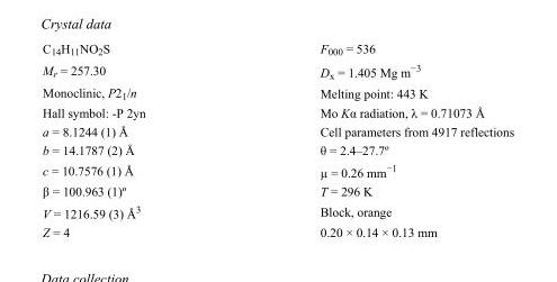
<table><tbody><tr><td>C<sub>14</sub>H<sub>11</sub>NO<sub>2</sub>S</td><td>F000 = 536</td></tr><tr><td>M<sub>r</sub> = 257.30</td><td>D<sub>x</sub> = 1.405 Mg m<sup>−3</sup></td></tr><tr><td>Monoclinic, P2<sub>1</sub>/n</td><td>Melting point: 443 K</td></tr><tr><td>Hall symbol: -P 2yn</td><td>Mo Kα radiation, λ = 0.71073 Å</td></tr><tr><td>a = 8.1244 (1) Å</td><td>Cell parameters from 4917 reflections</td></tr><tr><td>b = 14.1787 (2) Å</td><td>θ = 2.4–27.7º</td></tr><tr><td>c = 10.7576 (1) Å</td><td>µ = 0.26 mm<sup>−1</sup></td></tr><tr><td>β = 100.963 (1)º</td><td>T = 296 K</td></tr><tr><td>V = 1216.59 (3) Å<sup>3</sup></td><td>Block, orange</td></tr><tr><td>Z = 4</td><td>0.20 × 0.14 × 0.13 mm</td></tr></tbody></table>